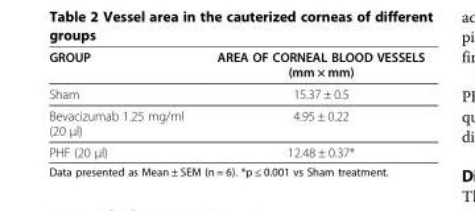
<table><thead><tr><td>GROUP</td><td>AREA OF CORNEAL BLOOD VESSELS (mm × mm)</td></tr></thead><tbody><tr><td>Sham</td><td>15.37 ± 0.5</td></tr><tr><td>Bevacizumab 1.25 mg/ml (20 μl)</td><td>4.95 ± 0.22</td></tr><tr><td>PHF (20 μl)</td><td>12.48 ± 0.37*</td></tr></tbody></table>